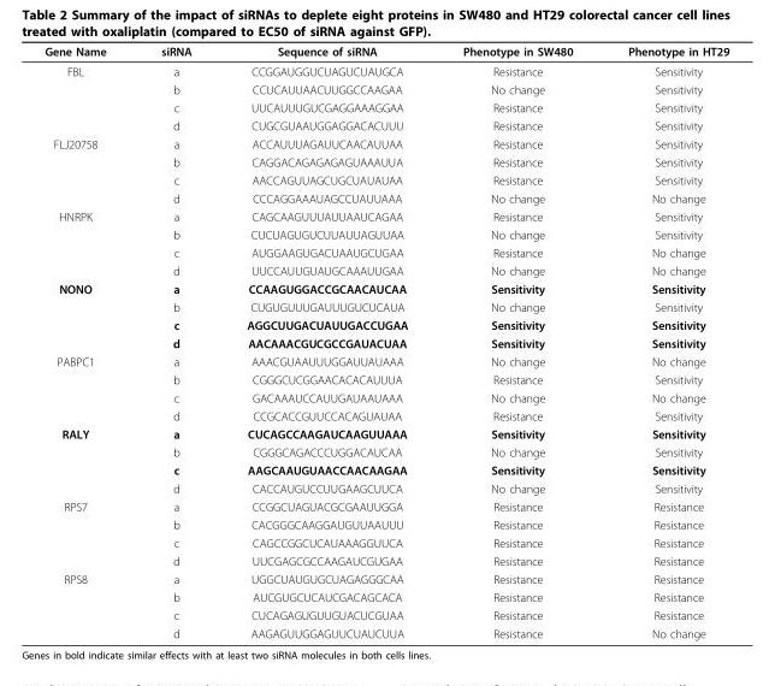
<table><thead><tr><td>Gene Name</td><td>siRNA</td><td>Sequence of siRNA</td><td>Phenotype in SW480</td><td>Phenotype in HT29</td></tr></thead><tbody><tr><td rowspan="4">FBL</td><td>a</td><td>CCGGAUGGUCUAGUCUAUGCA</td><td>Resistance</td><td>Sensitivity</td></tr><tr><td>b</td><td>CCUCAUUAACUUGGCCAAGAA</td><td>No change</td><td>Sensitivity</td></tr><tr><td>c</td><td>UUCAUUUGUCGAGGAAAGGAA</td><td>Resistance</td><td>Sensitivity</td></tr><tr><td>d</td><td>CUGCGUAAUGGAGGACACUUU</td><td>Resistance</td><td>Sensitivity</td></tr><tr><td rowspan="4">FLJ20758</td><td>a</td><td>ACCAUUUAGAUUCAACAUUAA</td><td>Resistance</td><td>Sensitivity</td></tr><tr><td>b</td><td>CAGGACAGAGAGAGUAAAUUA</td><td>Resistance</td><td>Sensitivity</td></tr><tr><td>c</td><td>AACCAGUUAGCUGCUAUAUAA</td><td>Resistance</td><td>Sensitivity</td></tr><tr><td>d</td><td>CCCAGGAAAUAGCCUAUUAAA</td><td>No change</td><td>No change</td></tr><tr><td rowspan="4">HNRPK</td><td>a</td><td>CAGCAAGUUUAUUAAUCAGAA</td><td>Resistance</td><td>Sensitivity</td></tr><tr><td>b</td><td>CUCUAGUGUCUUAUUAGUUAA</td><td>No change</td><td>Sensitivity</td></tr><tr><td>c</td><td>AUGGAAGUGACUAAUGCUGAA</td><td>Resistance</td><td>No change</td></tr><tr><td>d</td><td>UUCCAUUGUAUGCAAAUUGAA</td><td>No change</td><td>No change</td></tr><tr><td rowspan="4">NONO</td><td>a</td><td>CCAAGUGGACCGCAACAUCAA</td><td>Sensitivity</td><td>Sensitivity</td></tr><tr><td>b</td><td>CUGUGUUUGAUUUGUCUCAUA</td><td>No change</td><td>Sensitivity</td></tr><tr><td>c</td><td>AGGCUUGACUAUUGACCUGAA</td><td>Sensitivity</td><td>Sensitivity</td></tr><tr><td>d</td><td>AACAAACGUCGCCGAUACUAA</td><td>Sensitivity</td><td>Sensitivity</td></tr><tr><td rowspan="4">PABPC1</td><td>a</td><td>AAACGUAAUUUGGAUUAUAAA</td><td>No change</td><td>No change</td></tr><tr><td>b</td><td>CGGGCUCGGAACACACAUUUA</td><td>Resistance</td><td>Sensitivity</td></tr><tr><td>c</td><td>GACAAAUCCAUUGAUAAUAAA</td><td>No change</td><td>No change</td></tr><tr><td>d</td><td>CCGCACCGUUCCACAGUAUAA</td><td>Resistance</td><td>Sensitivity</td></tr><tr><td rowspan="4">RALY</td><td>a</td><td>CUCAGCCAAGAUCAAGUUAAA</td><td>Sensitivity</td><td>Sensitivity</td></tr><tr><td>b</td><td>CGGGCAGACCCUGGACAUCAA</td><td>No change</td><td>Sensitivity</td></tr><tr><td>c</td><td>AAGCAAUGUAACCAACAAGAA</td><td>Sensitivity</td><td>Sensitivity</td></tr><tr><td>d</td><td>CACCAUGUCCUUGAAGCUUCA</td><td>No change</td><td>Sensitivity</td></tr><tr><td rowspan="4">RPS7</td><td>a</td><td>CCGGCUAGUACGCGAAUUGGA</td><td>Resistance</td><td>Resistance</td></tr><tr><td>b</td><td>CACGGGCAAGGAUGUUAAUUU</td><td>Resistance</td><td>Resistance</td></tr><tr><td>c</td><td>CAGCCGGCUCAUAAAGGUUCA</td><td>Resistance</td><td>Resistance</td></tr><tr><td>d</td><td>UUCGAGCGCCAAGAUCGUGAA</td><td>Resistance</td><td>Resistance</td></tr><tr><td rowspan="4">RPS8</td><td>a</td><td>UGGCUAUGUGCUAGAGGGCAA</td><td>Resistance</td><td>Resistance</td></tr><tr><td>b</td><td>AUCGUGCUCAUCGACAGCACA</td><td>Resistance</td><td>Resistance</td></tr><tr><td>c</td><td>CUCAGAGUGUUGUACUCGUAA</td><td>Resistance</td><td>Resistance</td></tr><tr><td>d</td><td>AAGAGUUGGAGUUCUAUCUUA</td><td>Resistance</td><td>No change</td></tr></tbody></table>